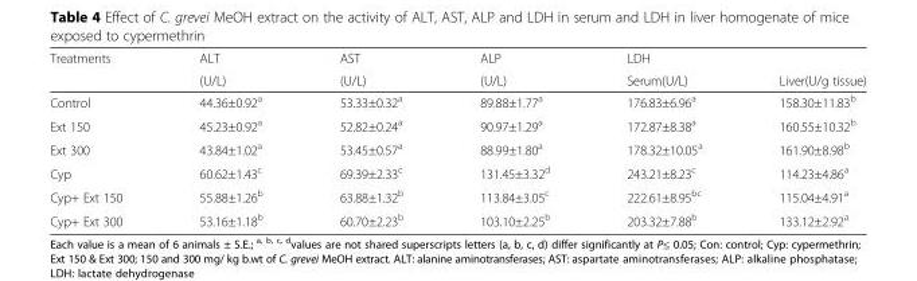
<table><thead><tr><td rowspan="2">Treatments</td><td rowspan="2">ALT (U/L)</td><td rowspan="2">AST (U/L)</td><td rowspan="2">ALP (U/L)</td><td colspan="2">LDH</td></tr><tr><td>Serum(U/L)</td><td>Liver(U/g tissue)</td></tr></thead><tbody><tr><td>Control</td><td>44.36±0.92<sup>a</sup></td><td>53.33±0.32<sup>a</sup></td><td>89.88±1.77<sup>a</sup></td><td>176.83±6.96<sup>a</sup></td><td>158.30±11.83<sup>b</sup></td></tr><tr><td>Ext 150</td><td>45.23±0.92<sup>a</sup></td><td>52.82±0.24<sup>a</sup></td><td>90.97±1.29<sup>a</sup></td><td>172.87±8.38<sup>a</sup></td><td>160.55±10.32<sup>b</sup></td></tr><tr><td>Ext 300</td><td>43.84±1.02<sup>a</sup></td><td>53.45±0.57<sup>a</sup></td><td>88.99±1.80<sup>a</sup></td><td>178.32±10.05<sup>a</sup></td><td>161.90±8.98<sup>b</sup></td></tr><tr><td>Cyp</td><td>60.62±1.43<sup>c</sup></td><td>69.39±2.33<sup>c</sup></td><td>131.45±3.32<sup>d</sup></td><td>243.21±8.23<sup>c</sup></td><td>114.23±4.86<sup>a</sup></td></tr><tr><td>Cyp+ Ext 150</td><td>55.88±1.26<sup>b</sup></td><td>63.88±1.32<sup>b</sup></td><td>113.84±3.05<sup>c</sup></td><td>222.61±8.95<sup>bc</sup></td><td>115.04±4.91<sup>a</sup></td></tr><tr><td>Cyp+ Ext 300</td><td>53.16±1.18<sup>b</sup></td><td>60.70±2.23<sup>b</sup></td><td>103.10±2.25<sup>b</sup></td><td>203.32±7.88<sup>b</sup></td><td>133.12±2.92<sup>a</sup></td></tr></tbody></table>